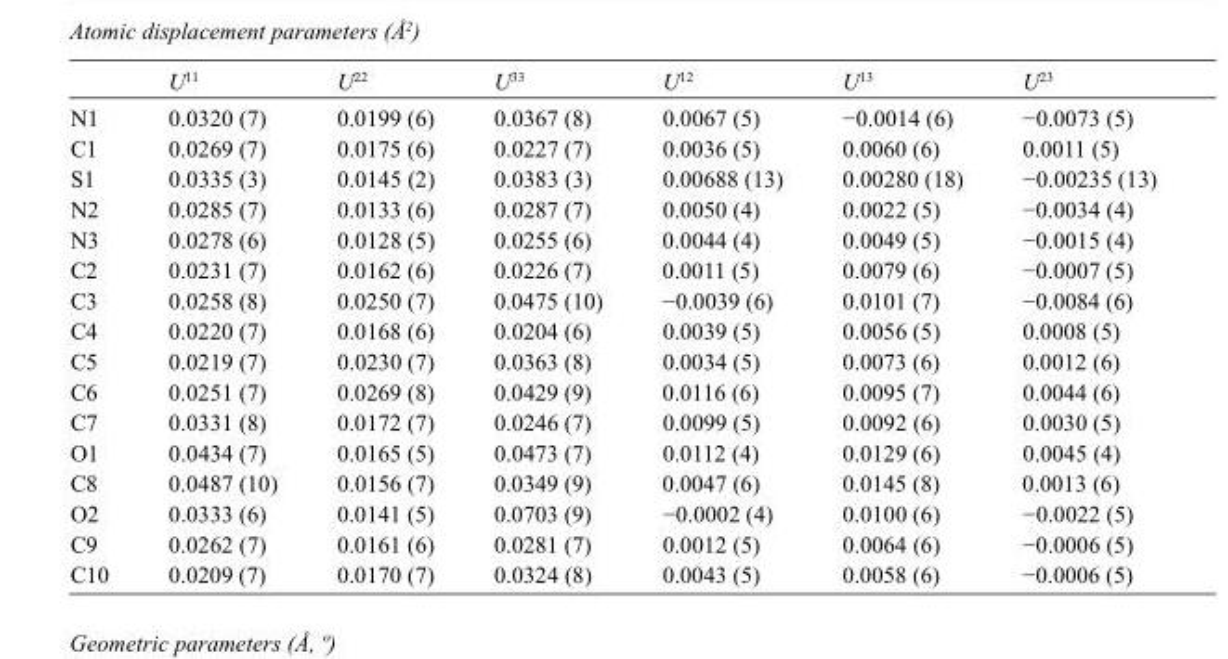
<table><thead><tr><td></td><td>U<sup>11</sup></td><td>U<sup>22</sup></td><td>U<sup>33</sup></td><td>U<sup>12</sup></td><td>U<sup>13</sup></td><td>U<sup>23</sup></td></tr></thead><tbody><tr><td>N1</td><td>0.0320 (7)</td><td>0.0199 (6)</td><td>0.0367 (8)</td><td>0.0067 (5)</td><td>−0.0014 (6)</td><td>−0.0073 (5)</td></tr><tr><td>C1</td><td>0.0269 (7)</td><td>0.0175 (6)</td><td>0.0227 (7)</td><td>0.0036 (5)</td><td>0.0060 (6)</td><td>0.0011 (5)</td></tr><tr><td>S1</td><td>0.0335 (3)</td><td>0.0145 (2)</td><td>0.0383 (3)</td><td>0.00688 (13)</td><td>0.00280 (18)</td><td>−0.00235 (13)</td></tr><tr><td>N2</td><td>0.0285 (7)</td><td>0.0133 (6)</td><td>0.0287 (7)</td><td>0.0050 (4)</td><td>0.0022 (5)</td><td>−0.0034 (4)</td></tr><tr><td>N3</td><td>0.0278 (6)</td><td>0.0128 (5)</td><td>0.0255 (6)</td><td>0.0044 (4)</td><td>0.0049 (5)</td><td>−0.0015 (4)</td></tr><tr><td>C2</td><td>0.0231 (7)</td><td>0.0162 (6)</td><td>0.0226 (7)</td><td>0.0011 (5)</td><td>0.0079 (6)</td><td>−0.0007 (5)</td></tr><tr><td>C3</td><td>0.0258 (8)</td><td>0.0250 (7)</td><td>0.0475 (10)</td><td>−0.0039 (6)</td><td>0.0101 (7)</td><td>−0.0084 (6)</td></tr><tr><td>C4</td><td>0.0220 (7)</td><td>0.0168 (6)</td><td>0.0204 (6)</td><td>0.0039 (5)</td><td>0.0056 (5)</td><td>0.0008 (5)</td></tr><tr><td>C5</td><td>0.0219 (7)</td><td>0.0230 (7)</td><td>0.0363 (8)</td><td>0.0034 (5)</td><td>0.0073 (6)</td><td>0.0012 (6)</td></tr><tr><td>C6</td><td>0.0251 (7)</td><td>0.0269 (8)</td><td>0.0429 (9)</td><td>0.0116 (6)</td><td>0.0095 (7)</td><td>0.0044 (6)</td></tr><tr><td>C7</td><td>0.0331 (8)</td><td>0.0172 (7)</td><td>0.0246 (7)</td><td>0.0099 (5)</td><td>0.0092 (6)</td><td>0.0030 (5)</td></tr><tr><td>O1</td><td>0.0434 (7)</td><td>0.0165 (5)</td><td>0.0473 (7)</td><td>0.0112 (4)</td><td>0.0129 (6)</td><td>0.0045 (4)</td></tr><tr><td>C8</td><td>0.0487 (10)</td><td>0.0156 (7)</td><td>0.0349 (9)</td><td>0.0047 (6)</td><td>0.0145 (8)</td><td>0.0013 (6)</td></tr><tr><td>O2</td><td>0.0333 (6)</td><td>0.0141 (5)</td><td>0.0703 (9)</td><td>−0.0002 (4)</td><td>0.0100 (6)</td><td>−0.0022 (5)</td></tr><tr><td>C9</td><td>0.0262 (7)</td><td>0.0161 (6)</td><td>0.0281 (7)</td><td>0.0012 (5)</td><td>0.0064 (6)</td><td>−0.0006 (5)</td></tr><tr><td>C10</td><td>0.0209 (7)</td><td>0.0170 (7)</td><td>0.0324 (8)</td><td>0.0043 (5)</td><td>0.0058 (6)</td><td>−0.0006 (5)</td></tr></tbody></table>